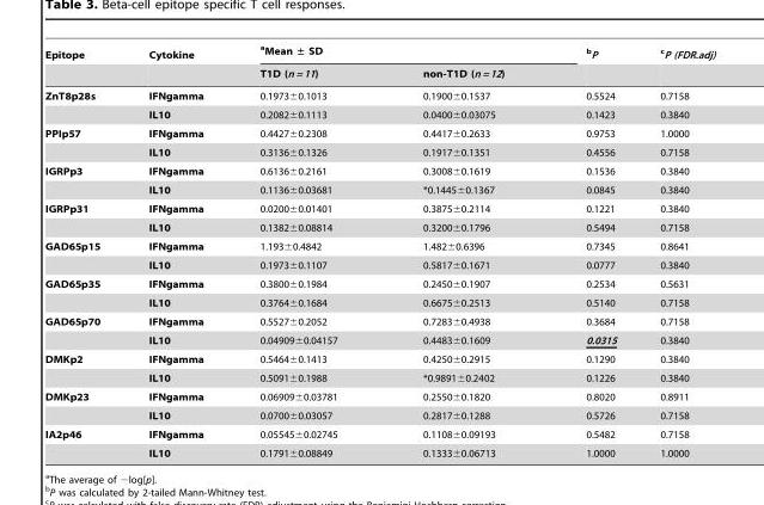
<table><thead><tr><td rowspan="2">Epitope</td><td rowspan="2">Cytokine</td><td colspan="2">aMean ± SD</td><td rowspan="2">bP</td><td rowspan="2">cP (FDR.adj)</td></tr><tr><td>T1D (n = 11)</td><td>non-T1D (n = 12)</td></tr></thead><tbody><tr><td rowspan="2">ZnT8p28s</td><td>IFNgamma</td><td>0.1973±0.1013</td><td>0.1900±0.1537</td><td>0.5524</td><td>0.7158</td></tr><tr><td>IL10</td><td>0.2082±0.1113</td><td>0.0400±0.03075</td><td>0.1423</td><td>0.3840</td></tr><tr><td rowspan="2">PPIp57</td><td>IFNgamma</td><td>0.4427±0.2308</td><td>0.4417±0.2633</td><td>0.9753</td><td>1.0000</td></tr><tr><td>IL10</td><td>0.3136±0.1326</td><td>0.1917±0.1351</td><td>0.4556</td><td>0.7158</td></tr><tr><td rowspan="2">IGRPp3</td><td>IFNgamma</td><td>0.6136±0.2161</td><td>0.3008±0.1619</td><td>0.1536</td><td>0.3840</td></tr><tr><td>IL10</td><td>0.1136±0.03681</td><td>*0.1445±0.1367</td><td>0.0845</td><td>0.3840</td></tr><tr><td rowspan="2">IGRPp31</td><td>IFNgamma</td><td>0.0200±0.01401</td><td>0.3875±0.2114</td><td>0.1221</td><td>0.3840</td></tr><tr><td>IL10</td><td>0.1382±0.08814</td><td>0.3200±0.1796</td><td>0.5494</td><td>0.7158</td></tr><tr><td rowspan="2">GAD65p15</td><td>IFNgamma</td><td>1.193±0.4842</td><td>1.482±0.6396</td><td>0.7345</td><td>0.8641</td></tr><tr><td>IL10</td><td>0.1973±0.1107</td><td>0.5817±0.1671</td><td>0.0777</td><td>0.3840</td></tr><tr><td rowspan="2">GAD65p35</td><td>IFNgamma</td><td>0.3800±0.1984</td><td>0.2450±0.1907</td><td>0.2534</td><td>0.5631</td></tr><tr><td>IL10</td><td>0.3764±0.1684</td><td>0.6675±0.2513</td><td>0.5140</td><td>0.7158</td></tr><tr><td rowspan="2">GAD65p70</td><td>IFNgamma</td><td>0.5527±0.2052</td><td>0.7283±0.4938</td><td>0.3684</td><td>0.7158</td></tr><tr><td>IL10</td><td>0.04909±0.04157</td><td>0.4483±0.1609</td><td>0.0315</td><td>0.3840</td></tr><tr><td rowspan="2">DMKp2</td><td>IFNgamma</td><td>0.5464±0.1413</td><td>0.4250±0.2915</td><td>0.1290</td><td>0.3840</td></tr><tr><td>IL10</td><td>0.5091±0.1988</td><td>*0.9891±0.2402</td><td>0.1226</td><td>0.3840</td></tr><tr><td rowspan="2">DMKp23</td><td>IFNgamma</td><td>0.06909±0.03781</td><td>0.2550±0.1820</td><td>0.8020</td><td>0.8911</td></tr><tr><td>IL10</td><td>0.0700±0.03057</td><td>0.2817±0.1288</td><td>0.5726</td><td>0.7158</td></tr><tr><td rowspan="2">IA2p46</td><td>IFNgamma</td><td>0.05545±0.02745</td><td>0.1108±0.09193</td><td>0.5482</td><td>0.7158</td></tr><tr><td>IL10</td><td>0.1791±0.08849</td><td>0.1333±0.06713</td><td>1.0000</td><td>1.0000</td></tr></tbody></table>